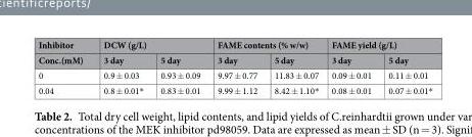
<table><thead><tr><td rowspan="2">Inhibitor Conc.(mM)</td><td colspan="2">DCW (g/L)</td><td colspan="2">FAME contents (% w/w)</td><td colspan="2">FAME yield (g/L)</td></tr><tr><td>3 day</td><td>5 day</td><td>3 day</td><td>5 day</td><td>3 day</td><td>5 day</td></tr></thead><tbody><tr><td>0</td><td>0.9 ± 0.03</td><td>0.93 ± 0.09</td><td>9.97 ± 0.77</td><td>11.83 ± 0.07</td><td>0.09 ± 0.01</td><td>0.11 ± 0.01</td></tr><tr><td>0.04</td><td>0.8 ± 0.01*</td><td>0.83 ± 0.01</td><td>9.99 ± 1.12</td><td>8.42 ± 1.10*</td><td>0.08 ± 0.01</td><td>0.07 ± 0.01*</td></tr></tbody></table>